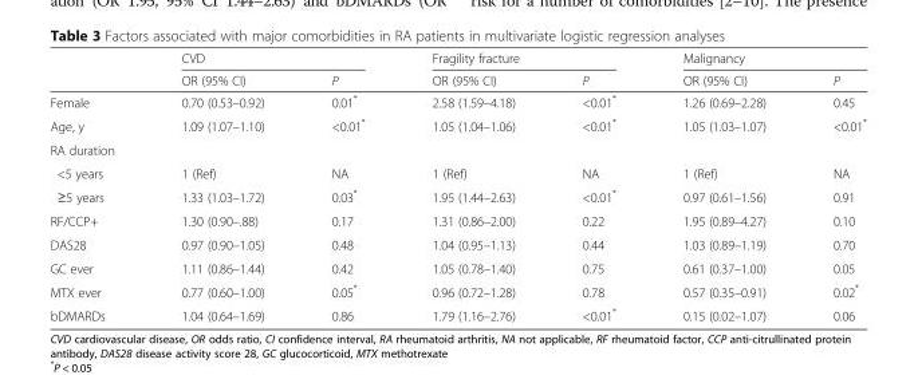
<table><thead><tr><td rowspan="2"></td><td colspan="2">CVD</td><td colspan="2">Fragility fracture</td><td colspan="2">Malignancy</td></tr><tr><td>OR (95% CI)</td><td>P</td><td>OR (95% CI)</td><td>P</td><td>OR (95% CI)</td><td>P</td></tr></thead><tbody><tr><td>Female</td><td>0.70 (0.53–0.92)</td><td>0.01*</td><td>2.58 (1.59–4.18)</td><td>&lt;0.01*</td><td>1.26 (0.69–2.28)</td><td>0.45</td></tr><tr><td>Age, y</td><td>1.09 (1.07–1.10)</td><td>&lt;0.01*</td><td>1.05 (1.04–1.06)</td><td>&lt;0.01*</td><td>1.05 (1.03–1.07)</td><td>&lt;0.01*</td></tr><tr><td colspan="7">RA duration</td></tr><tr><td>&lt;5 years</td><td>1 (Ref)</td><td>NA</td><td>1 (Ref)</td><td>NA</td><td>1 (Ref)</td><td>NA</td></tr><tr><td>≥5 years</td><td>1.33 (1.03–1.72)</td><td>0.03*</td><td>1.95 (1.44–2.63)</td><td>&lt;0.01*</td><td>0.97 (0.61–1.56)</td><td>0.91</td></tr><tr><td>RF/CCP+</td><td>1.30 (0.90–.88)</td><td>0.17</td><td>1.31 (0.86–2.00)</td><td>0.22</td><td>1.95 (0.89–4.27)</td><td>0.10</td></tr><tr><td>DAS28</td><td>0.97 (0.90–1.05)</td><td>0.48</td><td>1.04 (0.95–1.13)</td><td>0.44</td><td>1.03 (0.89–1.19)</td><td>0.70</td></tr><tr><td>GC ever</td><td>1.11 (0.86–1.44)</td><td>0.42</td><td>1.05 (0.78–1.40)</td><td>0.75</td><td>0.61 (0.37–1.00)</td><td>0.05</td></tr><tr><td>MTX ever</td><td>0.77 (0.60–1.00)</td><td>0.05*</td><td>0.96 (0.72–1.28)</td><td>0.78</td><td>0.57 (0.35–0.91)</td><td>0.02*</td></tr><tr><td>bDMARDs</td><td>1.04 (0.64–1.69)</td><td>0.86</td><td>1.79 (1.16–2.76)</td><td>&lt;0.01*</td><td>0.15 (0.02–1.07)</td><td>0.06</td></tr></tbody></table>